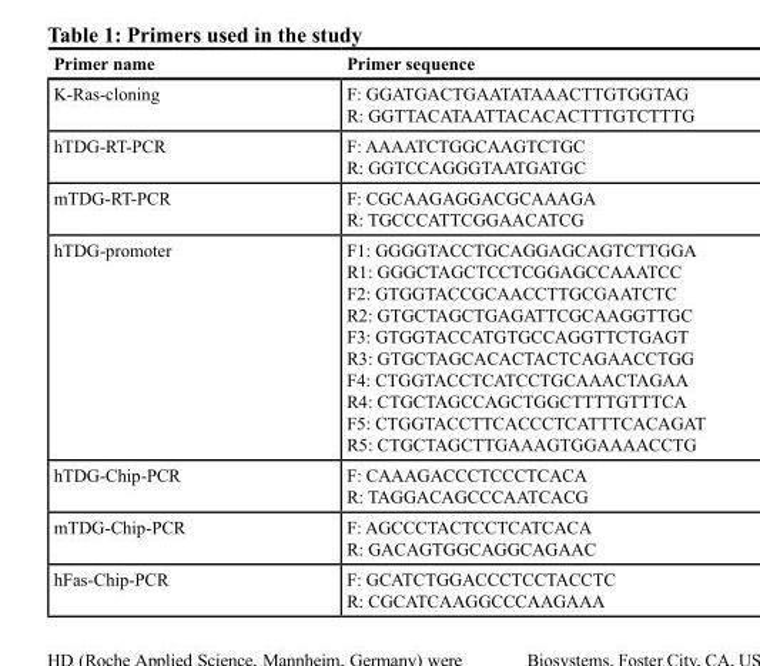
<table><thead><tr><td>Primer name</td><td>Primer sequence</td></tr></thead><tbody><tr><td>K-Ras-cloning</td><td>F: GGATGACTGAATATAAACTTGTGGTAG R: GGTTACATAATTACACACTTTGTCTTTG</td></tr><tr><td>hTDG-RT-PCR</td><td>F: AAAATCTGGCAAGTCTGC R: GGTCCAGGGTAATGATGC</td></tr><tr><td>mTDG-RT-PCR</td><td>F: CGCAAGAGGACGCAAAGA R: TGCCCATTCGGAACATCG</td></tr><tr><td>hTDG-promoter</td><td>F1: GGGGTACCTGCAGGAGCAGTCTTGGA R1: GGGCTAGCTCCTCGGAGCCAAATCC F2: GTGGTACCGCAACCTTGCGAATCTC R2: GTGCTAGCTGAGATTCGCAAGGTTGC F3: GTGGTACCATGTGCCAGGTTCTGAGT R3: GTGCTAGCACACTACTCAGAACCTGG F4: CTGGTACCTCATCCTGCAAACTAGAA R4: CTGCTAGCCAGCTGGCTTTTGTTTCA F5: CTGGTACCTTCACCCTCATTTCACAGAT R5: CTGCTAGCTTGAAAGTGGAAAACCTG</td></tr><tr><td>hTDG-Chip-PCR</td><td>F: CAAAGACCCTCCCTCACA R: TAGGACAGCCCAATCACG</td></tr><tr><td>mTDG-Chip-PCR</td><td>F: AGCCCTACTCCTCATCACA R: GACAGTGGCAGGCAGAAC</td></tr><tr><td>hFas-Chip-PCR</td><td>F: GCATCTGGACCCTCCTACCTC R: CGCATCAAGGCCCAAGAAA</td></tr></tbody></table>